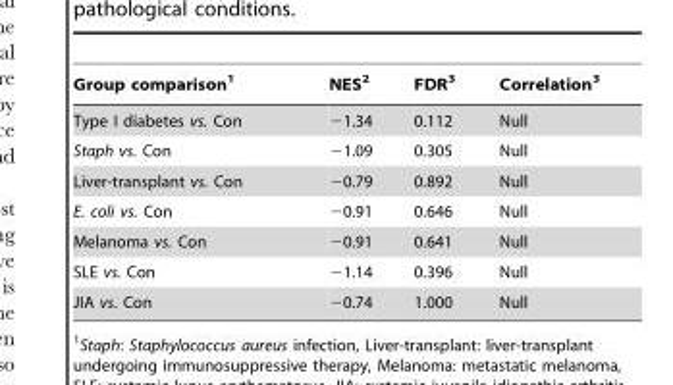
<table><thead><tr><td>Group comparison<sup>1</sup></td><td>NES<sup>2</sup></td><td>FDR<sup>3</sup></td><td>Correlation<sup>3</sup></td></tr></thead><tbody><tr><td>Type I diabetes vs. Con</td><td>−1.34</td><td>0.112</td><td>Null</td></tr><tr><td>Staph vs. Con</td><td>−1.09</td><td>0.305</td><td>Null</td></tr><tr><td>Liver-transplant vs. Con</td><td>−0.79</td><td>0.892</td><td>Null</td></tr><tr><td>E. coli vs. Con</td><td>−0.91</td><td>0.646</td><td>Null</td></tr><tr><td>Melanoma vs. Con</td><td>−0.91</td><td>0.641</td><td>Null</td></tr><tr><td>SLE vs. Con</td><td>−1.14</td><td>0.396</td><td>Null</td></tr><tr><td>JIA vs. Con</td><td>−0.74</td><td>1.000</td><td>Null</td></tr></tbody></table>